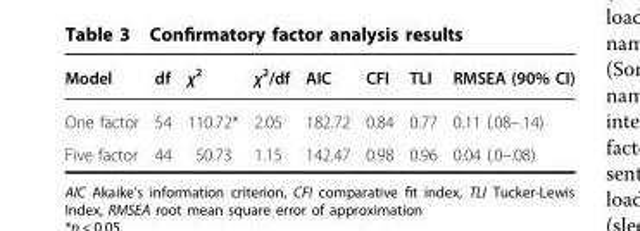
<table><thead><tr><td>Model</td><td>df</td><td>χ<sup>2</sup></td><td>χ<sup>2</sup>/df</td><td>AIC</td><td>CFI</td><td>TLI</td><td>RMSEA (90% CI)</td></tr></thead><tbody><tr><td>One factor</td><td>54</td><td>110.72*</td><td>2.05</td><td>182.72</td><td>0.84</td><td>0.77</td><td>0.11 (.08–.14)</td></tr><tr><td>Five factor</td><td>44</td><td>50.73</td><td>1.15</td><td>142.47</td><td>0.98</td><td>0.96</td><td>0.04 (.0–.08)</td></tr></tbody></table>